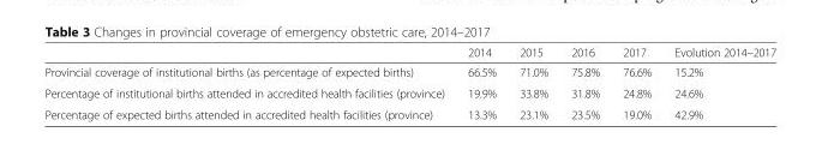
<table><thead><tr><td></td><td>2014</td><td>2015</td><td>2016</td><td>2017</td><td>Evolution 2014–2017</td></tr></thead><tbody><tr><td>Provincial coverage of institutional births (as percentage of expected births)</td><td>66.5%</td><td>71.0%</td><td>75.8%</td><td>76.6%</td><td>15.2%</td></tr><tr><td>Percentage of institutional births attended in accredited health facilities (province)</td><td>19.9%</td><td>33.8%</td><td>31.8%</td><td>24.8%</td><td>24.6%</td></tr><tr><td>Percentage of expected births attended in accredited health facilities (province)</td><td>13.3%</td><td>23.1%</td><td>23.5%</td><td>19.0%</td><td>42.9%</td></tr></tbody></table>